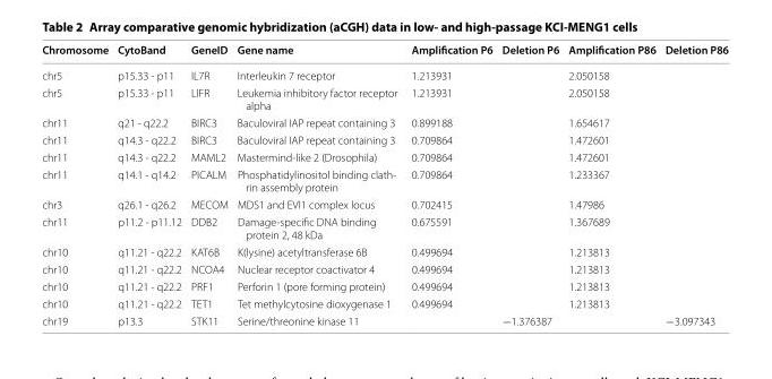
<table><thead><tr><td>Chromosome</td><td>CytoBand</td><td>GeneID</td><td>Gene name</td><td>Amplification P6</td><td>Deletion P6</td><td>Amplification P86</td><td>Deletion P86</td></tr></thead><tbody><tr><td>chr5</td><td>p15.33 ‑ p11</td><td>IL7R</td><td>Interleukin 7 receptor</td><td>1.213931</td><td></td><td>2.050158</td><td></td></tr><tr><td>chr5</td><td>p15.33 ‑ p11</td><td>LIFR</td><td>Leukemia inhibitory factor receptor alpha</td><td>1.213931</td><td></td><td>2.050158</td><td></td></tr><tr><td>chr11</td><td>q21 ‑ q22.2</td><td>BIRC3</td><td>Baculoviral IAP repeat containing 3</td><td>0.899188</td><td></td><td>1.654617</td><td></td></tr><tr><td>chr11</td><td>q14.3 ‑ q22.2</td><td>BIRC3</td><td>Baculoviral IAP repeat containing 3</td><td>0.709864</td><td></td><td>1.472601</td><td></td></tr><tr><td>chr11</td><td>q14.3 ‑ q22.2</td><td>MAML2</td><td>Mastermind‑like 2 (Drosophila)</td><td>0.709864</td><td></td><td>1.472601</td><td></td></tr><tr><td>chr11</td><td>q14.1 ‑ q14.2</td><td>PICALM</td><td>Phosphatidylinositol binding clath‑ rin assembly protein</td><td>0.709864</td><td></td><td>1.233367</td><td></td></tr><tr><td>chr3</td><td>q26.1 ‑ q26.2</td><td>MECOM</td><td>MDS1 and EVI1 complex locus</td><td>0.702415</td><td></td><td>1.47986</td><td></td></tr><tr><td>chr11</td><td>p11.2 ‑ p11.12</td><td>DDB2</td><td>Damage‑specific DNA binding protein 2, 48 kDa</td><td>0.675591</td><td></td><td>1.367689</td><td></td></tr><tr><td>chr10</td><td>q11.21 ‑ q22.2</td><td>KAT6B</td><td>K(lysine) acetyltransferase 6B</td><td>0.499694</td><td></td><td>1.213813</td><td></td></tr><tr><td>chr10</td><td>q11.21 ‑ q22.2</td><td>NCOA4</td><td>Nuclear receptor coactivator 4</td><td>0.499694</td><td></td><td>1.213813</td><td></td></tr><tr><td>chr10</td><td>q11.21 ‑ q22.2</td><td>PRF1</td><td>Perforin 1 (pore forming protein)</td><td>0.499694</td><td></td><td>1.213813</td><td></td></tr><tr><td>chr10</td><td>q11.21 ‑ q22.2</td><td>TET1</td><td>Tet methylcytosine dioxygenase 1</td><td>0.499694</td><td></td><td>1.213813</td><td></td></tr><tr><td>chr19</td><td>p13.3</td><td>STK11</td><td>Serine/threonine kinase 11</td><td></td><td>−1.376387</td><td></td><td>−3.097343</td></tr></tbody></table>